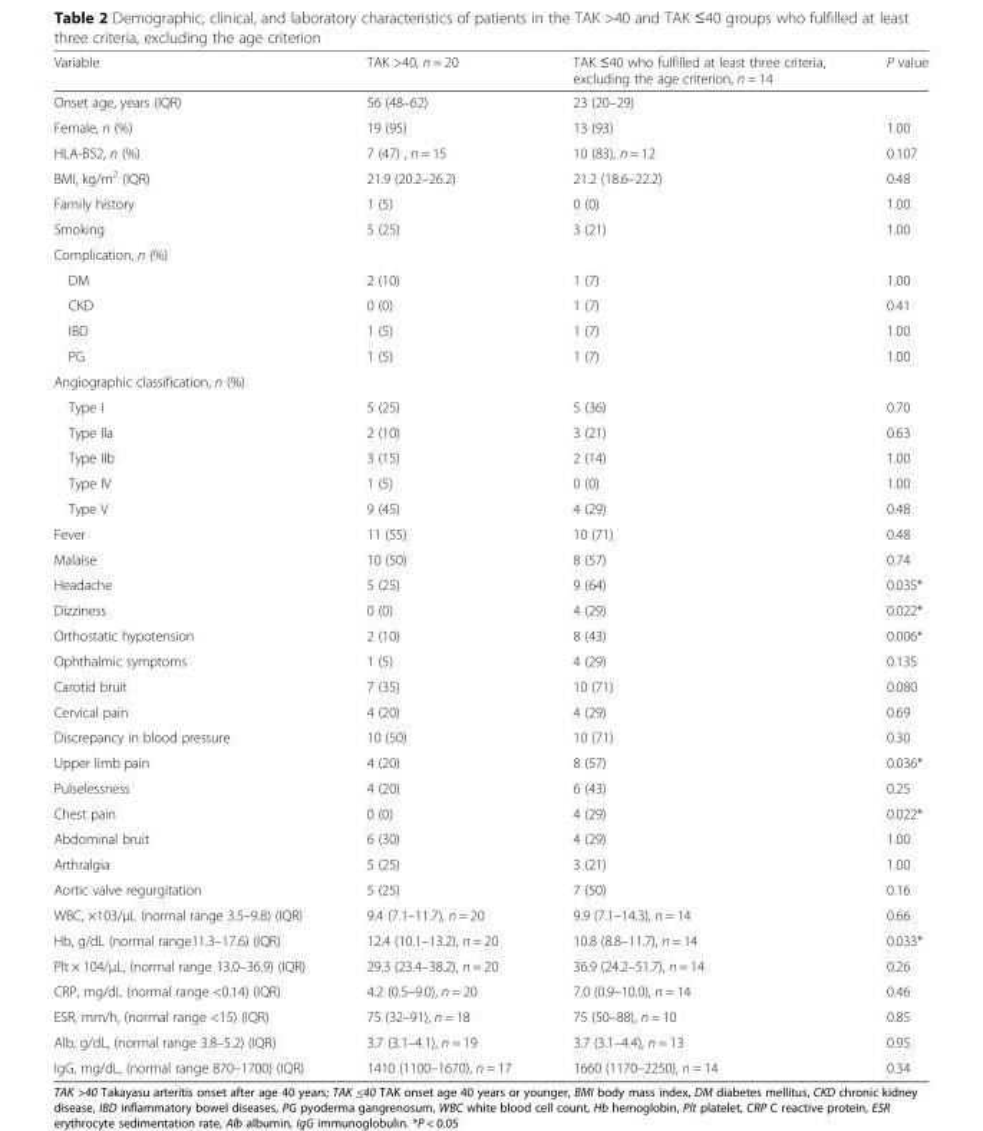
<table><thead><tr><td>Variable</td><td>TAK &gt;40, n = 20</td><td>TAK ≤40 who fulfilled at least three criteria, excluding the age criterion, n = 14</td><td>P value</td></tr></thead><tbody><tr><td>Onset age, years (IQR)</td><td>56 (48–62)</td><td>23 (20–29)</td><td></td></tr><tr><td>Female, n (%)</td><td>19 (95)</td><td>13 (93)</td><td>1.00</td></tr><tr><td>HLA-B52, n (%)</td><td>7 (47) , n = 15</td><td>10 (83), n = 12</td><td>0.107</td></tr><tr><td>BMI, kg/m<sup>2</sup> (IQR)</td><td>21.9 (20.2–26.2)</td><td>21.2 (18.6–22.2)</td><td>0.48</td></tr><tr><td>Family history</td><td>1 (5)</td><td>0 (0)</td><td>1.00</td></tr><tr><td>Smoking</td><td>5 (25)</td><td>3 (21)</td><td>1.00</td></tr><tr><td colspan="4">Complication, n (%)</td></tr><tr><td>DM</td><td>2 (10)</td><td>1 (7)</td><td>1.00</td></tr><tr><td>CKD</td><td>0 (0)</td><td>1 (7)</td><td>0.41</td></tr><tr><td>IBD</td><td>1 (5)</td><td>1 (7)</td><td>1.00</td></tr><tr><td>PG</td><td>1 (5)</td><td>1 (7)</td><td>1.00</td></tr><tr><td colspan="4">Angiographic classification, n (%)</td></tr><tr><td>Type I</td><td>5 (25)</td><td>5 (36)</td><td>0.70</td></tr><tr><td>Type IIa</td><td>2 (10)</td><td>3 (21)</td><td>0.63</td></tr><tr><td>Type IIb</td><td>3 (15)</td><td>2 (14)</td><td>1.00</td></tr><tr><td>Type IV</td><td>1 (5)</td><td>0 (0)</td><td>1.00</td></tr><tr><td>Type V</td><td>9 (45)</td><td>4 (29)</td><td>0.48</td></tr><tr><td>Fever</td><td>11 (55)</td><td>10 (71)</td><td>0.48</td></tr><tr><td>Malaise</td><td>10 (50)</td><td>8 (57)</td><td>0.74</td></tr><tr><td>Headache</td><td>5 (25)</td><td>9 (64)</td><td>0.035*</td></tr><tr><td>Dizziness</td><td>0 (0)</td><td>4 (29)</td><td>0.022*</td></tr><tr><td>Orthostatic hypotension</td><td>2 (10)</td><td>8 (43)</td><td>0.006*</td></tr><tr><td>Ophthalmic symptoms</td><td>1 (5)</td><td>4 (29)</td><td>0.135</td></tr><tr><td>Carotid bruit</td><td>7 (35)</td><td>10 (71)</td><td>0.080</td></tr><tr><td>Cervical pain</td><td>4 (20)</td><td>4 (29)</td><td>0.69</td></tr><tr><td>Discrepancy in blood pressure</td><td>10 (50)</td><td>10 (71)</td><td>0.30</td></tr><tr><td>Upper limb pain</td><td>4 (20)</td><td>8 (57)</td><td>0.036*</td></tr><tr><td>Pulselessness</td><td>4 (20)</td><td>6 (43)</td><td>0.25</td></tr><tr><td>Chest pain</td><td>0 (0)</td><td>4 (29)</td><td>0.022*</td></tr><tr><td>Abdominal bruit</td><td>6 (30)</td><td>4 (29)</td><td>1.00</td></tr><tr><td>Arthralgia</td><td>5 (25)</td><td>3 (21)</td><td>1.00</td></tr><tr><td>Aortic valve regurgitation</td><td>5 (25)</td><td>7 (50)</td><td>0.16</td></tr><tr><td>WBC, ×103/μL (normal range 3.5–9.8) (IQR)</td><td>9.4 (7.1–11.7), n = 20</td><td>9.9 (7.1–14.3), n = 14</td><td>0.66</td></tr><tr><td>Hb, g/dL (normal range11.3–17.6) (IQR)</td><td>12.4 (10.1–13.2), n = 20</td><td>10.8 (8.8–11.7), n = 14</td><td>0.033*</td></tr><tr><td>Plt × 104/μL, (normal range 13.0–36.9) (IQR)</td><td>29.3 (23.4–38.2), n = 20</td><td>36.9 (24.2–51.7), n = 14</td><td>0.26</td></tr><tr><td>CRP, mg/dL (normal range &lt;0.14) (IQR)</td><td>4.2 (0.5–9.0), n = 20</td><td>7.0 (0.9–10.0), n = 14</td><td>0.46</td></tr><tr><td>ESR, mm/h, (normal range &lt;15) (IQR)</td><td>75 (32–91), n = 18</td><td>75 (50–88), n = 10</td><td>0.85</td></tr><tr><td>Alb, g/dL, (normal range 3.8–5.2) (IQR)</td><td>3.7 (3.1–4.1), n = 19</td><td>3.7 (3.1–4.4), n = 13</td><td>0.95</td></tr><tr><td>IgG, mg/dL, (normal range 870–1700) (IQR)</td><td>1410 (1100–1670), n = 17</td><td>1660 (1170–2250), n = 14</td><td>0.34</td></tr></tbody></table>